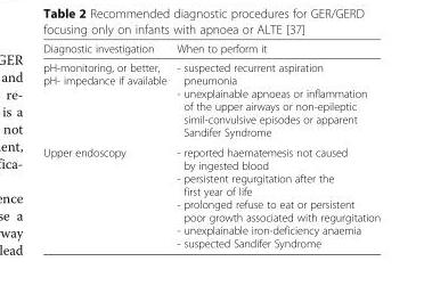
<table><thead><tr><td>Diagnostic investigation</td><td>When to perform it</td></tr></thead><tbody><tr><td>pH-monitoring, or better, pH- impedance if available</td><td>- suspected recurrent aspiration pneumonia - unexplainable apnoeas or inflammation of the upper airways or non-epileptic simil-convulsive episodes or apparent Sandifer Syndrome</td></tr><tr><td>Upper endoscopy</td><td>- reported haematemesis not caused by ingested blood - persistent regurgitation after the first year of life - prolonged refuse to eat or persistent poor growth associated with regurgitation - unexplainable iron-deficiency anaemia - suspected Sandifer Syndrome</td></tr></tbody></table>